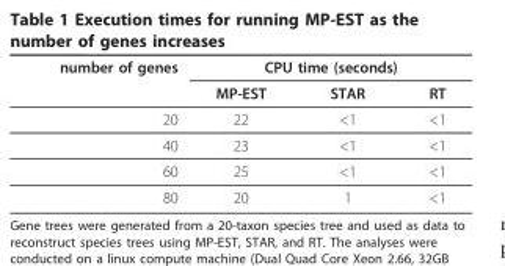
<table><thead><tr><td rowspan="2">number of genes</td><td colspan="3">CPU time (seconds)</td></tr><tr><td>MP-EST</td><td>STAR</td><td>RT</td></tr></thead><tbody><tr><td>20</td><td>22</td><td>&lt;1</td><td>&lt;1</td></tr><tr><td>40</td><td>23</td><td>&lt;1</td><td>&lt;1</td></tr><tr><td>60</td><td>25</td><td>&lt;1</td><td>&lt;1</td></tr><tr><td>80</td><td>20</td><td>1</td><td>&lt;1</td></tr></tbody></table>